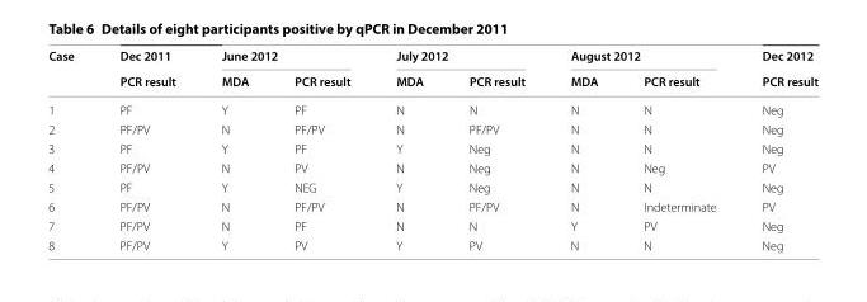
<table><thead><tr><td rowspan="2">Case</td><td rowspan="2">Dec 2011 PCR result</td><td colspan="2">June 2012</td><td colspan="2">July 2012</td><td colspan="2">August 2012</td><td rowspan="2">Dec 2012 PCR result</td></tr><tr><td>MDA</td><td>PCR result</td><td>MDA</td><td>PCR result</td><td>MDA</td><td>PCR result</td></tr></thead><tbody><tr><td>1</td><td>PF</td><td>Y</td><td>PF</td><td>N</td><td>N</td><td>N</td><td>N</td><td>Neg</td></tr><tr><td>2</td><td>PF/PV</td><td>N</td><td>PF/PV</td><td>N</td><td>PF/PV</td><td>N</td><td>N</td><td>Neg</td></tr><tr><td>3</td><td>PF</td><td>Y</td><td>PF</td><td>Y</td><td>Neg</td><td>N</td><td>N</td><td>Neg</td></tr><tr><td>4</td><td>PF/PV</td><td>N</td><td>PV</td><td>N</td><td>Neg</td><td>N</td><td>Neg</td><td>PV</td></tr><tr><td>5</td><td>PF</td><td>Y</td><td>NEG</td><td>Y</td><td>Neg</td><td>N</td><td>N</td><td>Neg</td></tr><tr><td>6</td><td>PF/PV</td><td>N</td><td>PF/PV</td><td>N</td><td>PF/PV</td><td>N</td><td>Indeterminate</td><td>PV</td></tr><tr><td>7</td><td>PF/PV</td><td>N</td><td>PF</td><td>N</td><td>N</td><td>Y</td><td>PV</td><td>Neg</td></tr><tr><td>8</td><td>PF/PV</td><td>Y</td><td>PV</td><td>Y</td><td>PV</td><td>N</td><td>N</td><td>Neg</td></tr></tbody></table>